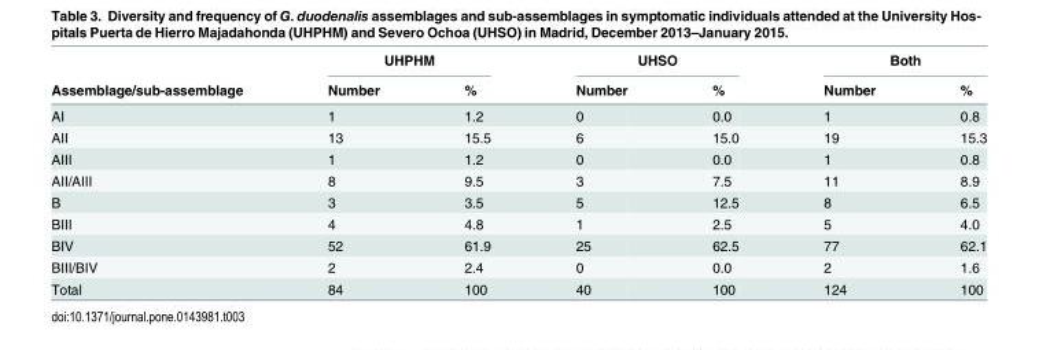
<table><thead><tr><td rowspan="2">Assemblage/sub-assemblage</td><td colspan="2">UHPHM</td><td colspan="2">UHSO</td><td colspan="2">Both</td></tr><tr><td>Number</td><td>%</td><td>Number</td><td>%</td><td>Number</td><td>%</td></tr></thead><tbody><tr><td>AI</td><td>1</td><td>1.2</td><td>0</td><td>0.0</td><td>1</td><td>0.8</td></tr><tr><td>AII</td><td>13</td><td>15.5</td><td>6</td><td>15.0</td><td>19</td><td>15.3</td></tr><tr><td>AIII</td><td>1</td><td>1.2</td><td>0</td><td>0.0</td><td>1</td><td>0.8</td></tr><tr><td>AII/AIII</td><td>8</td><td>9.5</td><td>3</td><td>7.5</td><td>11</td><td>8.9</td></tr><tr><td>B</td><td>3</td><td>3.5</td><td>5</td><td>12.5</td><td>8</td><td>6.5</td></tr><tr><td>BIII</td><td>4</td><td>4.8</td><td>1</td><td>2.5</td><td>5</td><td>4.0</td></tr><tr><td>BIV</td><td>52</td><td>61.9</td><td>25</td><td>62.5</td><td>77</td><td>62.1</td></tr><tr><td>BIII/BIV</td><td>2</td><td>2.4</td><td>0</td><td>0.0</td><td>2</td><td>1.6</td></tr><tr><td>Total</td><td>84</td><td>100</td><td>40</td><td>100</td><td>124</td><td>100</td></tr></tbody></table>